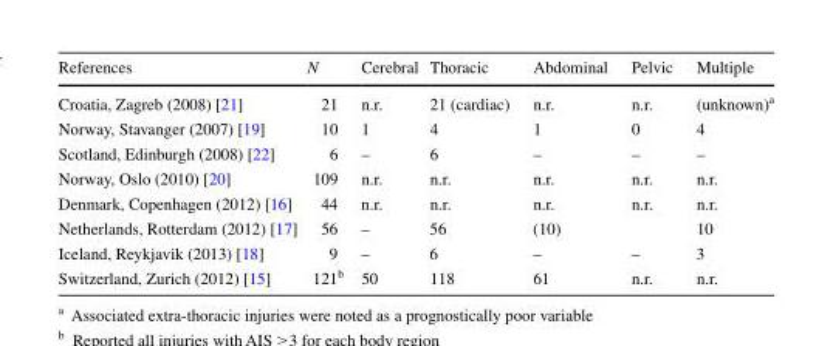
<table><thead><tr><td>References</td><td>N</td><td>Cerebral</td><td>Thoracic</td><td>Abdominal</td><td>Pelvic</td><td>Multiple</td></tr></thead><tbody><tr><td>Croatia, Zagreb (2008) [21]</td><td>21</td><td>n.r.</td><td>21 (cardiac)</td><td>n.r.</td><td>n.r.</td><td>(unknown)<sup>a</sup></td></tr><tr><td>Norway, Stavanger (2007) [19]</td><td>10</td><td>1</td><td>4</td><td>1</td><td>0</td><td>4</td></tr><tr><td>Scotland, Edinburgh (2008) [22]</td><td>6</td><td>–</td><td>6</td><td>–</td><td>–</td><td>–</td></tr><tr><td>Norway, Oslo (2010) [20]</td><td>109</td><td>n.r.</td><td>n.r.</td><td>n.r.</td><td>n.r.</td><td>n.r.</td></tr><tr><td>Denmark, Copenhagen (2012) [16]</td><td>44</td><td>n.r.</td><td>n.r.</td><td>n.r.</td><td>n.r.</td><td>n.r.</td></tr><tr><td>Netherlands, Rotterdam (2012) [17]</td><td>56</td><td>–</td><td>56</td><td>(10)</td><td></td><td>10</td></tr><tr><td>Iceland, Reykjavik (2013) [18]</td><td>9</td><td>–</td><td>6</td><td>–</td><td>–</td><td>3</td></tr><tr><td>Switzerland, Zurich (2012) [15]</td><td>121<sup>b</sup></td><td>50</td><td>118</td><td>61</td><td>n.r.</td><td>n.r.</td></tr></tbody></table>